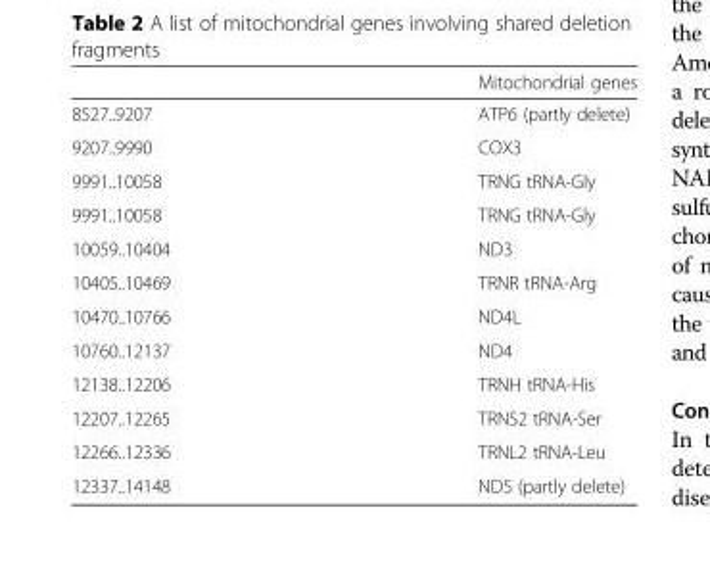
<table><thead><tr><td></td><td>Mitochondrial genes</td></tr></thead><tbody><tr><td>8527..9207</td><td>ATP6 (partly delete)</td></tr><tr><td>9207..9990</td><td>COX3</td></tr><tr><td>9991..10058</td><td>TRNG tRNA-Gly</td></tr><tr><td>9991..10058</td><td>TRNG tRNA-Gly</td></tr><tr><td>10059..10404</td><td>ND3</td></tr><tr><td>10405..10469</td><td>TRNR tRNA-Arg</td></tr><tr><td>10470..10766</td><td>ND4L</td></tr><tr><td>10760..12137</td><td>ND4</td></tr><tr><td>12138..12206</td><td>TRNH tRNA-His</td></tr><tr><td>12207..12265</td><td>TRNS2 tRNA-Ser</td></tr><tr><td>12266..12336</td><td>TRNL2 tRNA-Leu</td></tr><tr><td>12337..14148</td><td>ND5 (partly delete)</td></tr></tbody></table>